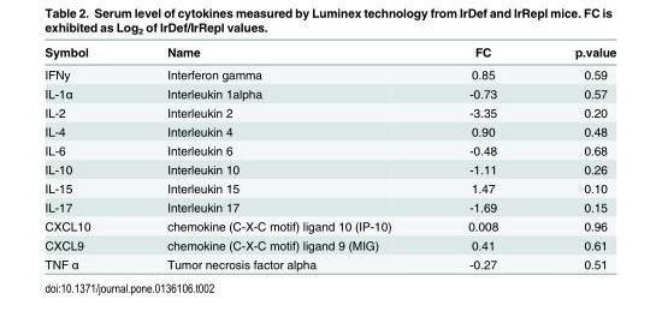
<table><thead><tr><td>Symbol</td><td>Name</td><td>FC</td><td>p.value</td></tr></thead><tbody><tr><td>IFNy</td><td>Interferon gamma</td><td>0.85</td><td>0.59</td></tr><tr><td>IL-1α</td><td>Interleukin 1alpha</td><td>-0.73</td><td>0.57</td></tr><tr><td>IL-2</td><td>Interleukin 2</td><td>-3.35</td><td>0.20</td></tr><tr><td>IL-4</td><td>Interleukin 4</td><td>0.90</td><td>0.48</td></tr><tr><td>IL-6</td><td>Interleukin 6</td><td>-0.48</td><td>0.68</td></tr><tr><td>IL-10</td><td>Interleukin 10</td><td>-1.11</td><td>0.26</td></tr><tr><td>IL-15</td><td>Interleukin 15</td><td>1.47</td><td>0.10</td></tr><tr><td>IL-17</td><td>Interleukin 17</td><td>-1.69</td><td>0.15</td></tr><tr><td>CXCL10</td><td>chemokine (C-X-C motif) ligand 10 (IP-10)</td><td>0.008</td><td>0.96</td></tr><tr><td>CXCL9</td><td>chemokine (C-X-C motif) ligand 9 (MIG)</td><td>0.41</td><td>0.61</td></tr><tr><td>TNF α</td><td>Tumor necrosis factor alpha</td><td>-0.27</td><td>0.51</td></tr></tbody></table>